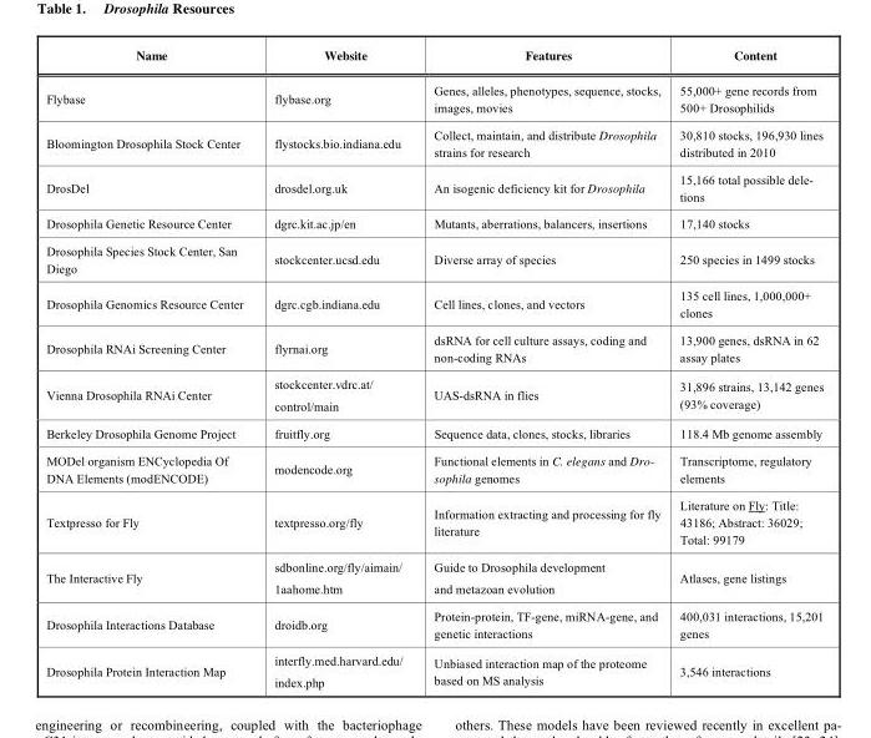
<table><thead><tr><td>Name</td><td>Website</td><td>Features</td><td>Content</td></tr></thead><tbody><tr><td>Flybase</td><td>flybase.org</td><td>Genes, alleles, phenotypes, sequence, stocks, images, movies</td><td>55,000+ gene records from 500+ Drosophilids</td></tr><tr><td>Bloomington Drosophila Stock Center</td><td>flystocks.bio.indiana.edu</td><td>Collect, maintain, and distribute Drosophila strains for research</td><td>30,810 stocks, 196,930 lines distributed in 2010</td></tr><tr><td>DrosDel</td><td>drosdel.org.uk</td><td>An isogenic deficiency kit for Drosophila</td><td>15,166 total possible dele- tions</td></tr><tr><td>Drosophila Genetic Resource Center</td><td>dgrc.kit.ac.jp/en</td><td>Mutants, aberrations, balancers, insertions</td><td>17,140 stocks</td></tr><tr><td>Drosophila Species Stock Center, San Diego</td><td>stockcenter.ucsd.edu</td><td>Diverse array of species</td><td>250 species in 1499 stocks</td></tr><tr><td>Drosophila Genomics Resource Center</td><td>dgrc.cgb.indiana.edu</td><td>Cell lines, clones, and vectors</td><td>135 cell lines, 1,000,000+ clones</td></tr><tr><td>Drosophila RNAi Screening Center</td><td>flyrnai.org</td><td>dsRNA for cell culture assays, coding and non-coding RNAs</td><td>13,900 genes, dsRNA in 62 assay plates</td></tr><tr><td>Vienna Drosophila RNAi Center</td><td>stockcenter.vdrc.at/ control/main</td><td>UAS-dsRNA in flies</td><td>31,896 strains, 13,142 genes (93% coverage)</td></tr><tr><td>Berkeley Drosophila Genome Project</td><td>fruitfly.org</td><td>Sequence data, clones, stocks, libraries</td><td>118.4 Mb genome assembly</td></tr><tr><td>MODel organism ENCyclopedia Of DNA Elements (modENCODE)</td><td>modencode.org</td><td>Functional elements in C. elegans and Dro- sophila genomes</td><td>Transcriptome, regulatory elements</td></tr><tr><td>Textpresso for Fly</td><td>textpresso.org/fly</td><td>Information extracting and processing for fly literature</td><td>Literature on Fly: Title: 43186; Abstract: 36029; Total: 99179</td></tr><tr><td>The Interactive Fly</td><td>sdbonline.org/fly/aimain/ 1aahome.htm</td><td>Guide to Drosophila development and metazoan evolution</td><td>Atlases, gene listings</td></tr><tr><td>Drosophila Interactions Database</td><td>droidb.org</td><td>Protein-protein, TF-gene, miRNA-gene, and genetic interactions</td><td>400,031 interactions, 15,201 genes</td></tr><tr><td>Drosophila Protein Interaction Map</td><td>interfly.med.harvard.edu/ index.php</td><td>Unbiased interaction map of the proteome based on MS analysis</td><td>3,546 interactions</td></tr></tbody></table>